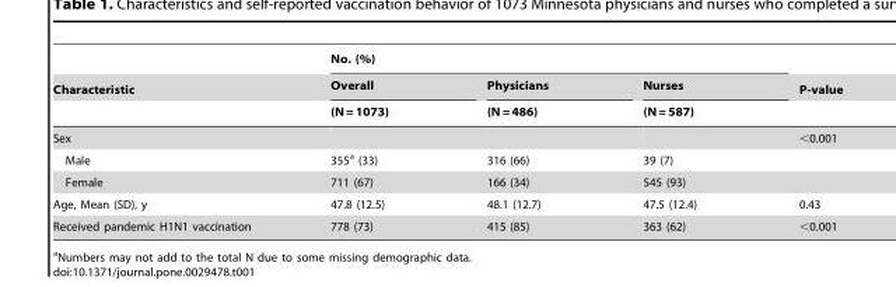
<table><thead><tr><td rowspan="3">Characteristic</td><td colspan="3">No. (%)</td><td rowspan="3">P-value</td></tr><tr><td rowspan="2">Overall (N = 1073)</td><td rowspan="2">Physicians (N = 486)</td><td rowspan="2">Nurses (N = 587)</td></tr><tr></tr></thead><tbody><tr><td>Sex</td><td></td><td></td><td></td><td>&lt;0.001</td></tr><tr><td>Male</td><td>355<sup>a</sup> (33)</td><td>316 (66)</td><td>39 (7)</td><td></td></tr><tr><td>Female</td><td>711 (67)</td><td>166 (34)</td><td>545 (93)</td><td></td></tr><tr><td>Age, Mean (SD), y</td><td>47.8 (12.5)</td><td>48.1 (12.7)</td><td>47.5 (12.4)</td><td>0.43</td></tr><tr><td>Received pandemic H1N1 vaccination</td><td>778 (73)</td><td>415 (85)</td><td>363 (62)</td><td>&lt;0.001</td></tr></tbody></table>